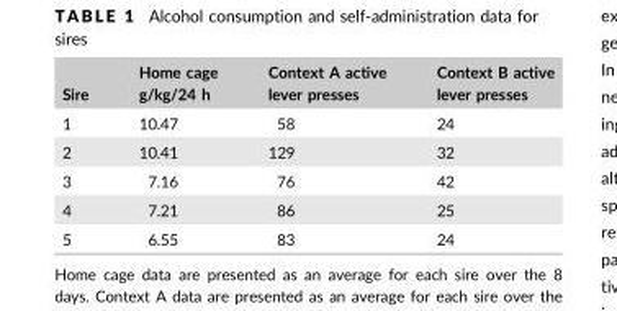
<table><thead><tr><td>Sire</td><td>Home cage g/kg/24 h</td><td>Context A active lever presses</td><td>Context B active lever presses</td></tr></thead><tbody><tr><td>1</td><td>10.47</td><td>58</td><td>24</td></tr><tr><td>2</td><td>10.41</td><td>129</td><td>32</td></tr><tr><td>3</td><td>7.16</td><td>76</td><td>42</td></tr><tr><td>4</td><td>7.21</td><td>86</td><td>25</td></tr><tr><td>5</td><td>6.55</td><td>83</td><td>24</td></tr></tbody></table>